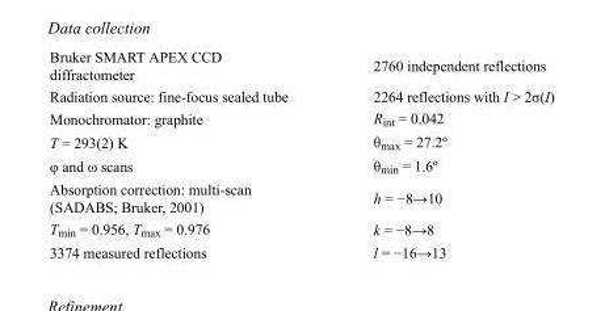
<table><tbody><tr><td>Bruker SMART APEX CCD diffractometer</td><td>2760 independent reflections</td></tr><tr><td>Radiation source: fine-focus sealed tube</td><td>2264 reflections with I &gt; 2σ(I)</td></tr><tr><td>Monochromator: graphite</td><td>R<sub>int</sub> = 0.042</td></tr><tr><td>T = 293(2) K</td><td>θ<sub>max</sub> = 27.2º</td></tr><tr><td>φ and ω scans</td><td>θ<sub>min</sub> = 1.6º</td></tr><tr><td>Absorption correction: multi-scan (SADABS; Bruker, 2001)</td><td>h = −8→10</td></tr><tr><td>T<sub>min</sub> = 0.956, T<sub>max</sub> = 0.976</td><td>k = −8→8</td></tr><tr><td>3374 measured reflections</td><td>l = −16→13</td></tr></tbody></table>